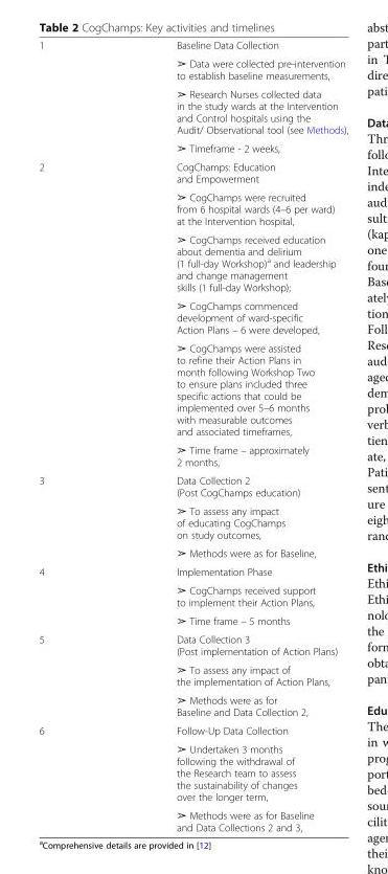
<table><tbody><tr><td rowspan="4">1</td><td>Baseline Data Collection</td></tr><tr><td>➢ Data were collected pre-intervention to establish baseline measurements,</td></tr><tr><td>➢ Research Nurses collected data in the study wards at the Intervention and Control hospitals using the Audit/ Observational tool (see Methods),</td></tr><tr><td>➢ Timeframe - 2 weeks,</td></tr><tr><td rowspan="6">2</td><td>CogChamps: Education and Empowerment</td></tr><tr><td>➢ CogChamps were recruited from 6 hospital wards (4–6 per ward) at the Intervention hospital,</td></tr><tr><td>➢ CogChamps received education about dementia and delirium (1 full-day Workshop)<sup>a</sup> and leadership and change management skills (1 full-day Workshop);</td></tr><tr><td>➢ CogChamps commenced development of ward-specific Action Plans – 6 were developed,</td></tr><tr><td>➢ CogChamps were assisted to refine their Action Plans in month following Workshop Two to ensure plans included three specific actions that could be implemented over 5–6 months with measurable outcomes and associated timeframes,</td></tr><tr><td>➢ Time frame – approximately 2 months,</td></tr><tr><td rowspan="3">3</td><td>Data Collection 2 (Post CogChamps education)</td></tr><tr><td>➢ To assess any impact of educating CogChamps on study outcomes,</td></tr><tr><td>➢ Methods were as for Baseline,</td></tr><tr><td rowspan="3">4</td><td>Implementation Phase</td></tr><tr><td>➢ CogChamps received support to implement their Action Plans,</td></tr><tr><td>➢ Time frame – 5 months</td></tr><tr><td rowspan="3">5</td><td>Data Collection 3 (Post implementation of Action Plans)</td></tr><tr><td>➢ To assess any impact of the implementation of Action Plans,</td></tr><tr><td>➢ Methods were as for Baseline and Data Collection 2,</td></tr><tr><td rowspan="3">6</td><td>Follow-Up Data Collection</td></tr><tr><td>➢ Undertaken 3 months following the withdrawal of the Research team to assess the sustainability of changes over the longer term,</td></tr><tr><td>➢ Methods were as for Baseline and Data Collections 2 and 3,</td></tr></tbody></table>